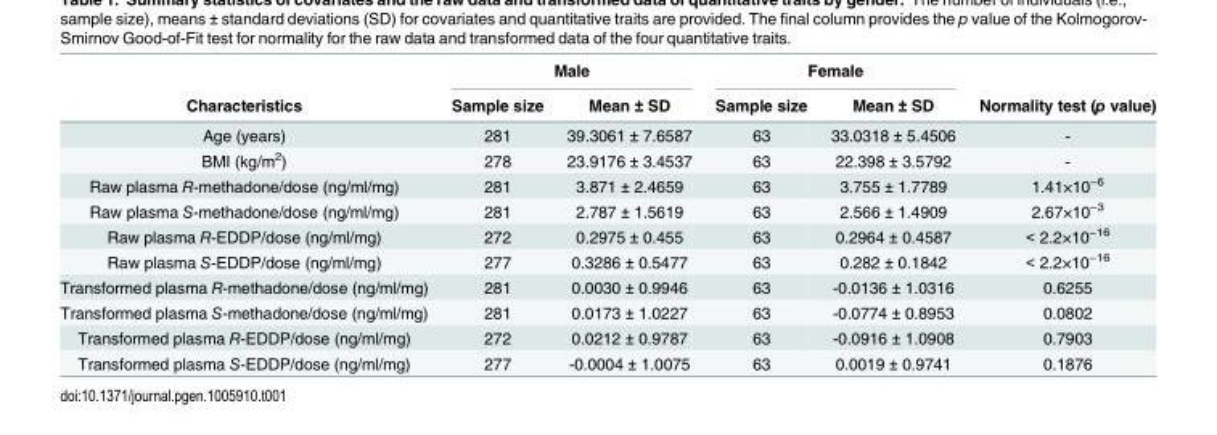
<table><thead><tr><td rowspan="2">Characteristics</td><td colspan="2">Male</td><td colspan="2">Female</td><td rowspan="2">Normality test (p value)</td></tr><tr><td>Sample size</td><td>Mean ± SD</td><td>Sample size</td><td>Mean ± SD</td></tr></thead><tbody><tr><td>Age (years)</td><td>281</td><td>39.3061 ± 7.6587</td><td>63</td><td>33.0318 ± 5.4506</td><td>-</td></tr><tr><td>BMI (kg/m<sup>2</sup>)</td><td>278</td><td>23.9176 ± 3.4537</td><td>63</td><td>22.398 ± 3.5792</td><td>-</td></tr><tr><td>Raw plasma R-methadone/dose (ng/ml/mg)</td><td>281</td><td>3.871 ± 2.4659</td><td>63</td><td>3.755 ± 1.7789</td><td>1.41×10<sup>−6</sup></td></tr><tr><td>Raw plasma S-methadone/dose (ng/ml/mg)</td><td>281</td><td>2.787 ± 1.5619</td><td>63</td><td>2.566 ± 1.4909</td><td>2.67×10<sup>−3</sup></td></tr><tr><td>Raw plasma R-EDDP/dose (ng/ml/mg)</td><td>272</td><td>0.2975 ± 0.455</td><td>63</td><td>0.2964 ± 0.4587</td><td>&lt; 2.2×10<sup>−16</sup></td></tr><tr><td>Raw plasma S-EDDP/dose (ng/ml/mg)</td><td>277</td><td>0.3286 ± 0.5477</td><td>63</td><td>0.282 ± 0.1842</td><td>&lt; 2.2×10<sup>−16</sup></td></tr><tr><td>Transformed plasma R-methadone/dose (ng/ml/mg)</td><td>281</td><td>0.0030 ± 0.9946</td><td>63</td><td>-0.0136 ± 1.0316</td><td>0.6255</td></tr><tr><td>Transformed plasma S-methadone/dose (ng/ml/mg)</td><td>281</td><td>0.0173 ± 1.0227</td><td>63</td><td>-0.0774 ± 0.8953</td><td>0.0802</td></tr><tr><td>Transformed plasma R-EDDP/dose (ng/ml/mg)</td><td>272</td><td>0.0212 ± 0.9787</td><td>63</td><td>-0.0916 ± 1.0908</td><td>0.7903</td></tr><tr><td>Transformed plasma S-EDDP/dose (ng/ml/mg)</td><td>277</td><td>-0.0004 ± 1.0075</td><td>63</td><td>0.0019 ± 0.9741</td><td>0.1876</td></tr></tbody></table>